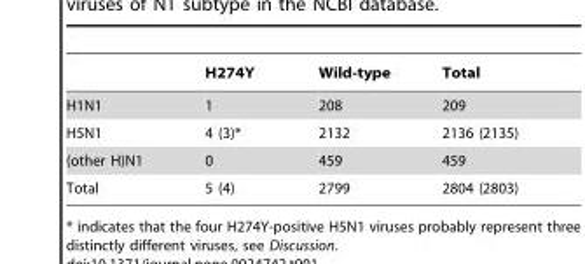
<table><thead><tr><td></td><td>H274Y</td><td>Wild-type</td><td>Total</td></tr></thead><tbody><tr><td>H1N1</td><td>1</td><td>208</td><td>209</td></tr><tr><td>H5N1</td><td>4 (3)*</td><td>2132</td><td>2136 (2135)</td></tr><tr><td>(other H)N1</td><td>0</td><td>459</td><td>459</td></tr><tr><td>Total</td><td>5 (4)</td><td>2799</td><td>2804 (2803)</td></tr></tbody></table>